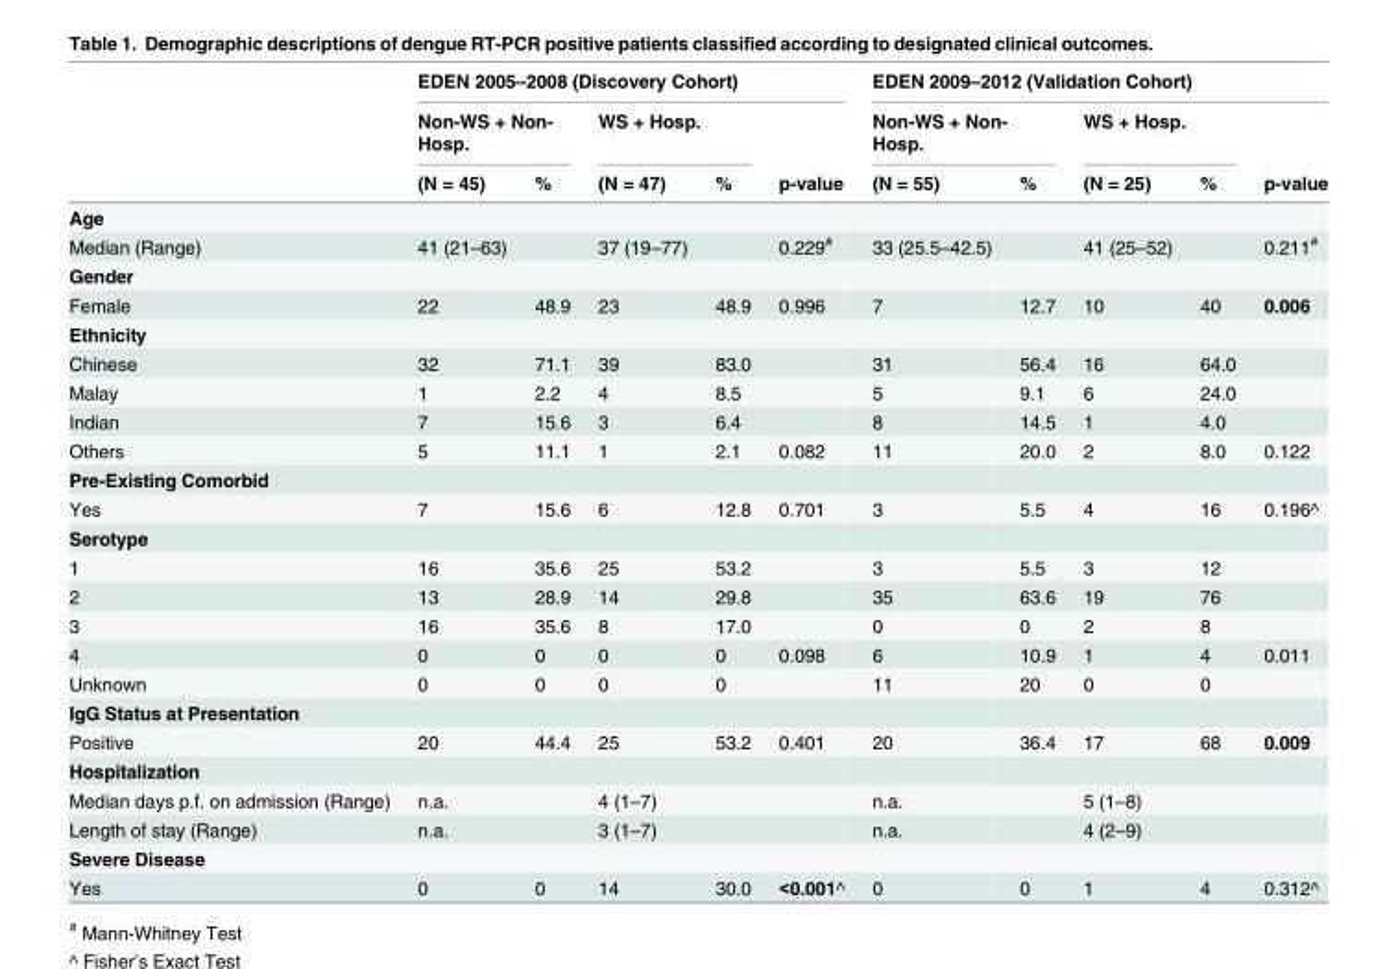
<table><thead><tr><td rowspan="3"></td><td colspan="5">EDEN 2005–2008 (Discovery Cohort)</td><td colspan="5">EDEN 2009–2012 (Validation Cohort)</td></tr><tr><td colspan="2">Non-WS + Non- Hosp.</td><td colspan="2">WS + Hosp.</td><td rowspan="2">p-value</td><td colspan="2">Non-WS + Non- Hosp.</td><td colspan="2">WS + Hosp.</td><td rowspan="2">p-value</td></tr><tr><td>(N = 45)</td><td>%</td><td>(N = 47)</td><td>%</td><td>(N = 55)</td><td>%</td><td>(N = 25)</td><td>%</td></tr></thead><tbody><tr><td colspan="11">Age</td></tr><tr><td>Median (Range)</td><td>41 (21–63)</td><td></td><td>37 (19–77)</td><td></td><td>0.229<sup>#</sup></td><td>33 (25.5–42.5)</td><td></td><td>41 (25–52)</td><td></td><td>0.211<sup>#</sup></td></tr><tr><td colspan="11">Gender</td></tr><tr><td>Female</td><td>22</td><td>48.9</td><td>23</td><td>48.9</td><td>0.996</td><td>7</td><td>12.7</td><td>10</td><td>40</td><td>0.006</td></tr><tr><td colspan="11">Ethnicity</td></tr><tr><td>Chinese</td><td>32</td><td>71.1</td><td>39</td><td>83.0</td><td></td><td>31</td><td>56.4</td><td>16</td><td>64.0</td><td></td></tr><tr><td>Malay</td><td>1</td><td>2.2</td><td>4</td><td>8.5</td><td></td><td>5</td><td>9.1</td><td>6</td><td>24.0</td><td></td></tr><tr><td>Indian</td><td>7</td><td>15.6</td><td>3</td><td>6.4</td><td></td><td>8</td><td>14.5</td><td>1</td><td>4.0</td><td></td></tr><tr><td>Others</td><td>5</td><td>11.1</td><td>1</td><td>2.1</td><td>0.082</td><td>11</td><td>20.0</td><td>2</td><td>8.0</td><td>0.122</td></tr><tr><td colspan="11">Pre-Existing Comorbid</td></tr><tr><td>Yes</td><td>7</td><td>15.6</td><td>6</td><td>12.8</td><td>0.701</td><td>3</td><td>5.5</td><td>4</td><td>16</td><td>0.196^</td></tr><tr><td colspan="11">Serotype</td></tr><tr><td>1</td><td>16</td><td>35.6</td><td>25</td><td>53.2</td><td></td><td>3</td><td>5.5</td><td>3</td><td>12</td><td></td></tr><tr><td>2</td><td>13</td><td>28.9</td><td>14</td><td>29.8</td><td></td><td>35</td><td>63.6</td><td>19</td><td>76</td><td></td></tr><tr><td>3</td><td>16</td><td>35.6</td><td>8</td><td>17.0</td><td></td><td>0</td><td>0</td><td>2</td><td>8</td><td></td></tr><tr><td>4</td><td>0</td><td>0</td><td>0</td><td>0</td><td>0.098</td><td>6</td><td>10.9</td><td>1</td><td>4</td><td>0.011</td></tr><tr><td>Unknown</td><td>0</td><td>0</td><td>0</td><td>0</td><td></td><td>11</td><td>20</td><td>0</td><td>0</td><td></td></tr><tr><td colspan="11">IgG Status at Presentation</td></tr><tr><td>Positive</td><td>20</td><td>44.4</td><td>25</td><td>53.2</td><td>0.401</td><td>20</td><td>36.4</td><td>17</td><td>68</td><td>0.009</td></tr><tr><td colspan="11">Hospitalization</td></tr><tr><td>Median days p.f. on admission (Range)</td><td>n.a.</td><td></td><td>4 (1–7)</td><td></td><td></td><td>n.a.</td><td></td><td>5 (1–8)</td><td></td><td></td></tr><tr><td>Length of stay (Range)</td><td>n.a.</td><td></td><td>3 (1–7)</td><td></td><td></td><td>n.a.</td><td></td><td>4 (2–9)</td><td></td><td></td></tr><tr><td colspan="11">Severe Disease</td></tr><tr><td>Yes</td><td>0</td><td>0</td><td>14</td><td>30.0</td><td>&lt;0.001^</td><td>0</td><td>0</td><td>1</td><td>4</td><td>0.312^</td></tr></tbody></table>